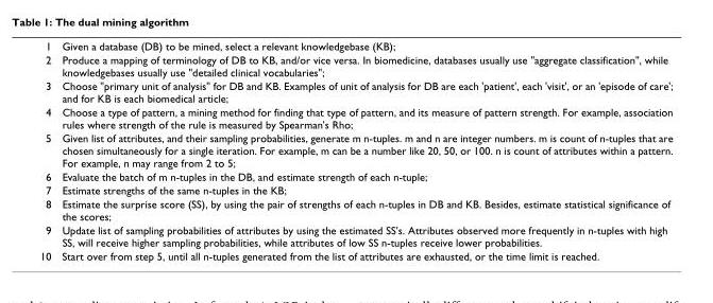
<table><tbody><tr><td>1</td><td>Given a database (DB) to be mined, select a relevant knowledgebase (KB);</td></tr><tr><td>2</td><td>Produce a mapping of terminology of DB to KB, and/or vice versa. In biomedicine, databases usually use &quot;aggregate classification&quot;, while knowledgebases usually use &quot;detailed clinical vocabularies&quot;;</td></tr><tr><td>3</td><td>Choose &quot;primary unit of analysis&quot; for DB and KB. Examples of unit of analysis for DB are each &#x27;patient&#x27;, each &#x27;visit&#x27;, or an &#x27;episode of care&#x27;; and for KB is each biomedical article;</td></tr><tr><td>4</td><td>Choose a type of pattern, a mining method for finding that type of pattern, and its measure of pattern strength. For example, association rules where strength of the rule is measured by Spearman&#x27;s Rho;</td></tr><tr><td>5</td><td>Given list of attributes, and their sampling probabilities, generate m n-tuples. m and n are integer numbers. m is count of n-tuples that are chosen simultaneously for a single iteration. For example, m can be a number like 20, 50, or 100. n is count of attributes within a pattern. For example, n may range from 2 to 5;</td></tr><tr><td>6</td><td>Evaluate the batch of m n-tuples in the DB, and estimate strength of each n-tuple;</td></tr><tr><td>7</td><td>Estimate strengths of the same n-tuples in the KB;</td></tr><tr><td>8</td><td>Estimate the surprise score (SS), by using the pair of strengths of each n-tuples in DB and KB. Besides, estimate statistical significance of the scores;</td></tr><tr><td>9</td><td>Update list of sampling probabilities of attributes by using the estimated SS&#x27;s. Attributes observed more frequently in n-tuples with high SS, will receive higher sampling probabilities, while attributes of low SS n-tuples receive lower probabilities.</td></tr><tr><td>10</td><td>Start over from step 5, until all n-tuples generated from the list of attributes are exhausted, or the time limit is reached.</td></tr></tbody></table>